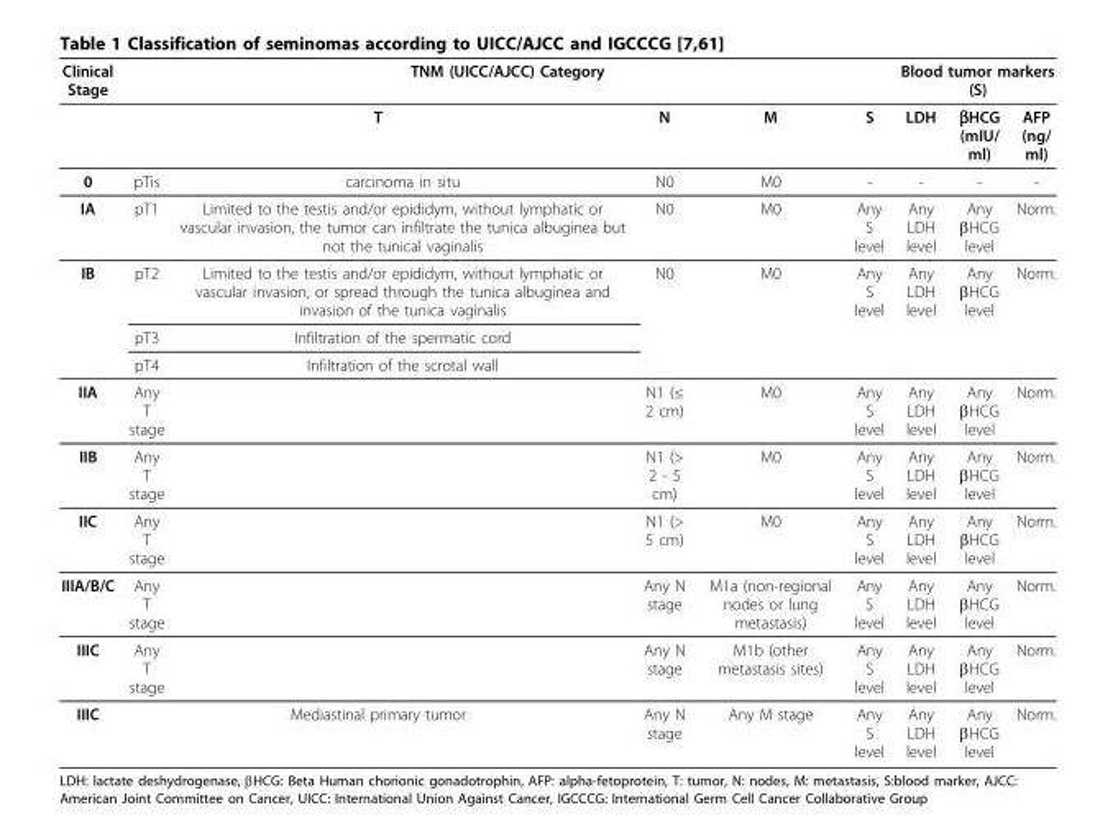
<table><thead><tr><td rowspan="3">Clinical Stage 0</td><td colspan="5">TNM (UICC/AJCC) Category</td><td colspan="3">Blood tumor markers (S)</td></tr><tr><td colspan="2">T</td><td rowspan="2">N N0</td><td rowspan="2">M M0</td><td rowspan="2">S -</td><td rowspan="2">LDH -</td><td rowspan="2">βHCG (mIU/ ml) -</td><td rowspan="2">AFP (ng/ ml) -</td></tr><tr><td>pTis</td><td>carcinoma in situ</td></tr></thead><tbody><tr><td>IA</td><td>pT1</td><td>Limited to the testis and/or epididym, without lymphatic or vascular invasion, the tumor can infiltrate the tunica albuginea but not the tunical vaginalis</td><td>N0</td><td>M0</td><td>Any S level</td><td>Any LDH level</td><td>Any βHCG level</td><td>Norm.</td></tr><tr><td rowspan="3">IB</td><td>pT2</td><td>Limited to the testis and/or epididym, without lymphatic or vascular invasion, or spread through the tunica albuginea and invasion of the tunica vaginalis</td><td>N0</td><td>M0</td><td>Any S level</td><td>Any LDH level</td><td>Any βHCG level</td><td>Norm.</td></tr><tr><td>pT3</td><td>Infiltration of the spermatic cord</td><td></td><td></td><td></td><td></td><td></td><td></td></tr><tr><td>pT4</td><td>Infiltration of the scrotal wall</td><td></td><td></td><td></td><td></td><td></td><td></td></tr><tr><td>IIA</td><td>Any T stage</td><td></td><td>N1 (≤ 2 cm)</td><td>M0</td><td>Any S level</td><td>Any LDH level</td><td>Any βHCG level</td><td>Norm.</td></tr><tr><td>IIB</td><td>Any T stage</td><td></td><td>N1 (&gt; 2 - 5 cm)</td><td>M0</td><td>Any S level</td><td>Any LDH level</td><td>Any βHCG level</td><td>Norm.</td></tr><tr><td>IIC</td><td>Any T stage</td><td></td><td>N1 (&gt; 5 cm)</td><td>M0</td><td>Any S level</td><td>Any LDH level</td><td>Any βHCG level</td><td>Norm.</td></tr><tr><td>IIIA/B/C</td><td>Any T stage</td><td></td><td>Any N stage</td><td>M1a (non-regional nodes or lung metastasis)</td><td>Any S level</td><td>Any LDH level</td><td>Any βHCG level</td><td>Norm.</td></tr><tr><td>IIIC</td><td>Any T stage</td><td></td><td>Any N stage</td><td>M1b (other metastasis sites)</td><td>Any S level</td><td>Any LDH level</td><td>Any βHCG level</td><td>Norm.</td></tr><tr><td>IIIC</td><td colspan="2">Mediastinal primary tumor</td><td>Any N stage</td><td>Any M stage</td><td>Any S level</td><td>Any LDH level</td><td>Any βHCG level</td><td>Norm.</td></tr></tbody></table>